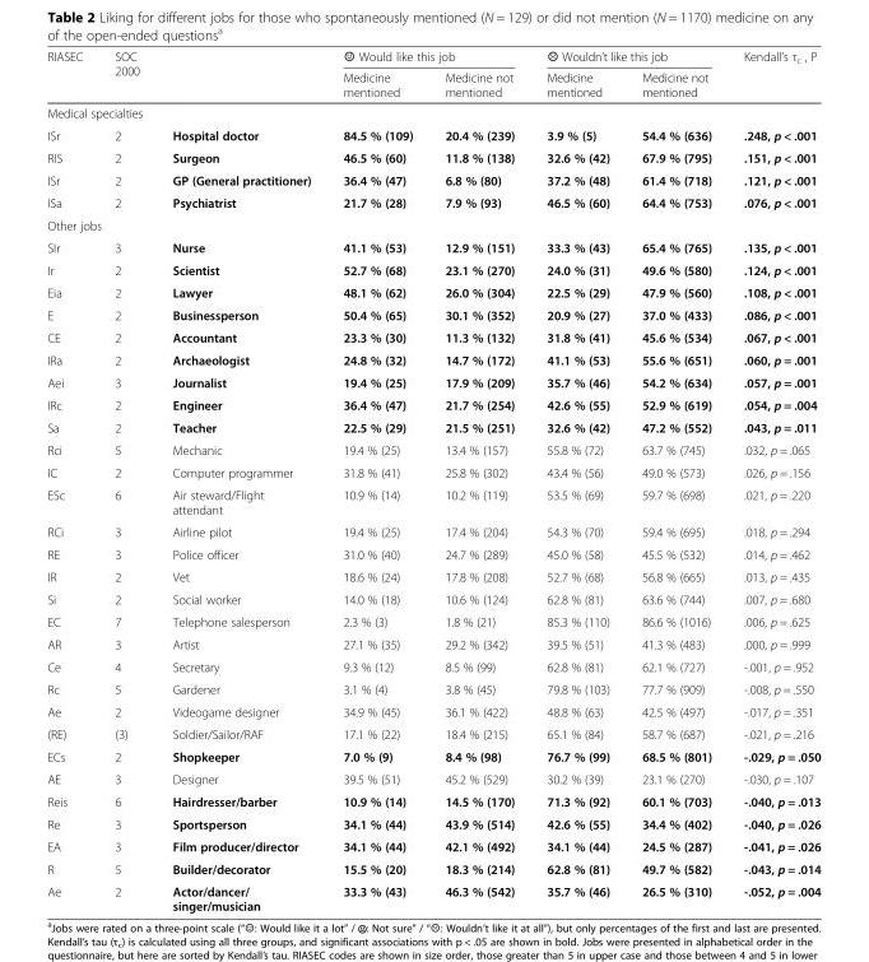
<table><thead><tr><td rowspan="2">RIASEC</td><td rowspan="2">SOC 2000</td><td rowspan="2"></td><td colspan="2">☺ Would like this job</td><td colspan="2">☹ Wouldn’t like this job</td><td rowspan="2">Kendall’s τ<sub>c</sub> , P</td></tr><tr><td>Medicine mentioned</td><td>Medicine not mentioned</td><td>Medicine mentioned</td><td>Medicine not mentioned</td></tr></thead><tbody><tr><td colspan="8">Medical specialties</td></tr><tr><td>ISr</td><td>2</td><td>Hospital doctor</td><td>84.5 % (109)</td><td>20.4 % (239)</td><td>3.9 % (5)</td><td>54.4 % (636)</td><td>.248, p &lt; .001</td></tr><tr><td>RIS</td><td>2</td><td>Surgeon</td><td>46.5 % (60)</td><td>11.8 % (138)</td><td>32.6 % (42)</td><td>67.9 % (795)</td><td>.151, p &lt; .001</td></tr><tr><td>ISr</td><td>2</td><td>GP (General practitioner)</td><td>36.4 % (47)</td><td>6.8 % (80)</td><td>37.2 % (48)</td><td>61.4 % (718)</td><td>.121, p &lt; .001</td></tr><tr><td>ISa</td><td>2</td><td>Psychiatrist</td><td>21.7 % (28)</td><td>7.9 % (93)</td><td>46.5 % (60)</td><td>64.4 % (753)</td><td>.076, p &lt; .001</td></tr><tr><td colspan="8">Other jobs</td></tr><tr><td>SIr</td><td>3</td><td>Nurse</td><td>41.1 % (53)</td><td>12.9 % (151)</td><td>33.3 % (43)</td><td>65.4 % (765)</td><td>.135, p &lt; .001</td></tr><tr><td>Ir</td><td>2</td><td>Scientist</td><td>52.7 % (68)</td><td>23.1 % (270)</td><td>24.0 % (31)</td><td>49.6 % (580)</td><td>.124, p &lt; .001</td></tr><tr><td>Eia</td><td>2</td><td>Lawyer</td><td>48.1 % (62)</td><td>26.0 % (304)</td><td>22.5 % (29)</td><td>47.9 % (560)</td><td>.108, p &lt; .001</td></tr><tr><td>E</td><td>2</td><td>Businessperson</td><td>50.4 % (65)</td><td>30.1 % (352)</td><td>20.9 % (27)</td><td>37.0 % (433)</td><td>.086, p &lt; .001</td></tr><tr><td>CE</td><td>2</td><td>Accountant</td><td>23.3 % (30)</td><td>11.3 % (132)</td><td>31.8 % (41)</td><td>45.6 % (534)</td><td>.067, p &lt; .001</td></tr><tr><td>IRa</td><td>2</td><td>Archaeologist</td><td>24.8 % (32)</td><td>14.7 % (172)</td><td>41.1 % (53)</td><td>55.6 % (651)</td><td>.060, p = .001</td></tr><tr><td>Aei</td><td>3</td><td>Journalist</td><td>19.4 % (25)</td><td>17.9 % (209)</td><td>35.7 % (46)</td><td>54.2 % (634)</td><td>.057, p = .001</td></tr><tr><td>IRc</td><td>2</td><td>Engineer</td><td>36.4 % (47)</td><td>21.7 % (254)</td><td>42.6 % (55)</td><td>52.9 % (619)</td><td>.054, p = .004</td></tr><tr><td>Sa</td><td>2</td><td>Teacher</td><td>22.5 % (29)</td><td>21.5 % (251)</td><td>32.6 % (42)</td><td>47.2 % (552)</td><td>.043, p = .011</td></tr><tr><td>Rci</td><td>5</td><td>Mechanic</td><td>19.4 % (25)</td><td>13.4 % (157)</td><td>55.8 % (72)</td><td>63.7 % (745)</td><td>.032, p = .065</td></tr><tr><td>IC</td><td>2</td><td>Computer programmer</td><td>31.8 % (41)</td><td>25.8 % (302)</td><td>43.4 % (56)</td><td>49.0 % (573)</td><td>.026, p = .156</td></tr><tr><td>ESc</td><td>6</td><td>Air steward/Flight attendant</td><td>10.9 % (14)</td><td>10.2 % (119)</td><td>53.5 % (69)</td><td>59.7 % (698)</td><td>.021, p = .220</td></tr><tr><td>RCi</td><td>3</td><td>Airline pilot</td><td>19.4 % (25)</td><td>17.4 % (204)</td><td>54.3 % (70)</td><td>59.4 % (695)</td><td>.018, p = .294</td></tr><tr><td>RE</td><td>3</td><td>Police officer</td><td>31.0 % (40)</td><td>24.7 % (289)</td><td>45.0 % (58)</td><td>45.5 % (532)</td><td>.014, p = .462</td></tr><tr><td>IR</td><td>2</td><td>Vet</td><td>18.6 % (24)</td><td>17.8 % (208)</td><td>52.7 % (68)</td><td>56.8 % (665)</td><td>.013, p = .435</td></tr><tr><td>Si</td><td>2</td><td>Social worker</td><td>14.0 % (18)</td><td>10.6 % (124)</td><td>62.8 % (81)</td><td>63.6 % (744)</td><td>.007, p = .680</td></tr><tr><td>EC</td><td>7</td><td>Telephone salesperson</td><td>2.3 % (3)</td><td>1.8 % (21)</td><td>85.3 % (110)</td><td>86.6 % (1016)</td><td>.006, p = .625</td></tr><tr><td>AR</td><td>3</td><td>Artist</td><td>27.1 % (35)</td><td>29.2 % (342)</td><td>39.5 % (51)</td><td>41.3 % (483)</td><td>.000, p = .999</td></tr><tr><td>Ce</td><td>4</td><td>Secretary</td><td>9.3 % (12)</td><td>8.5 % (99)</td><td>62.8 % (81)</td><td>62.1 % (727)</td><td>-.001, p = .952</td></tr><tr><td>Rc</td><td>5</td><td>Gardener</td><td>3.1 % (4)</td><td>3.8 % (45)</td><td>79.8 % (103)</td><td>77.7 % (909)</td><td>-.008, p = .550</td></tr><tr><td>Ae</td><td>2</td><td>Videogame designer</td><td>34.9 % (45)</td><td>36.1 % (422)</td><td>48.8 % (63)</td><td>42.5 % (497)</td><td>-.017, p = .351</td></tr><tr><td>(RE)</td><td>(3)</td><td>Soldier/Sailor/RAF</td><td>17.1 % (22)</td><td>18.4 % (215)</td><td>65.1 % (84)</td><td>58.7 % (687)</td><td>-.021, p = .216</td></tr><tr><td>ECs</td><td>2</td><td>Shopkeeper</td><td>7.0 % (9)</td><td>8.4 % (98)</td><td>76.7 % (99)</td><td>68.5 % (801)</td><td>-.029, p = .050</td></tr><tr><td>AE</td><td>3</td><td>Designer</td><td>39.5 % (51)</td><td>45.2 % (529)</td><td>30.2 % (39)</td><td>23.1 % (270)</td><td>-.030, p = .107</td></tr><tr><td>Reis</td><td>6</td><td>Hairdresser/barber</td><td>10.9 % (14)</td><td>14.5 % (170)</td><td>71.3 % (92)</td><td>60.1 % (703)</td><td>-.040, p = .013</td></tr><tr><td>Re</td><td>3</td><td>Sportsperson</td><td>34.1 % (44)</td><td>43.9 % (514)</td><td>42.6 % (55)</td><td>34.4 % (402)</td><td>-.040, p = .026</td></tr><tr><td>EA</td><td>3</td><td>Film producer/director</td><td>34.1 % (44)</td><td>42.1 % (492)</td><td>34.1 % (44)</td><td>24.5 % (287)</td><td>-.041, p = .026</td></tr><tr><td>R</td><td>5</td><td>Builder/decorator</td><td>15.5 % (20)</td><td>18.3 % (214)</td><td>62.8 % (81)</td><td>49.7 % (582)</td><td>-.043, p = .014</td></tr><tr><td>Ae</td><td>2</td><td>Actor/dancer/ singer/musician</td><td>33.3 % (43)</td><td>46.3 % (542)</td><td>35.7 % (46)</td><td>26.5 % (310)</td><td>-.052, p = .004</td></tr></tbody></table>